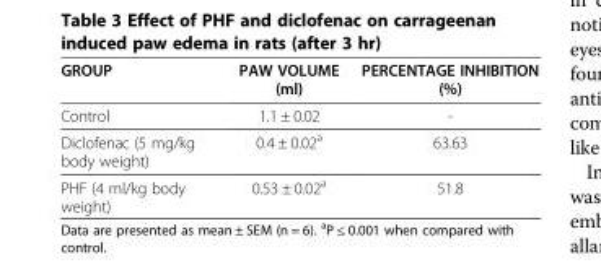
<table><thead><tr><td>GROUP</td><td>PAW VOLUME (ml)</td><td>PERCENTAGE INHIBITION (%)</td></tr></thead><tbody><tr><td>Control</td><td>1.1 ± 0.02</td><td>-</td></tr><tr><td>Diclofenac (5 mg/kg body weight)</td><td>0.4 ± 0.02<sup>a</sup></td><td>63.63</td></tr><tr><td>PHF (4 ml/kg body weight)</td><td>0.53 ± 0.02<sup>a</sup></td><td>51.8</td></tr></tbody></table>